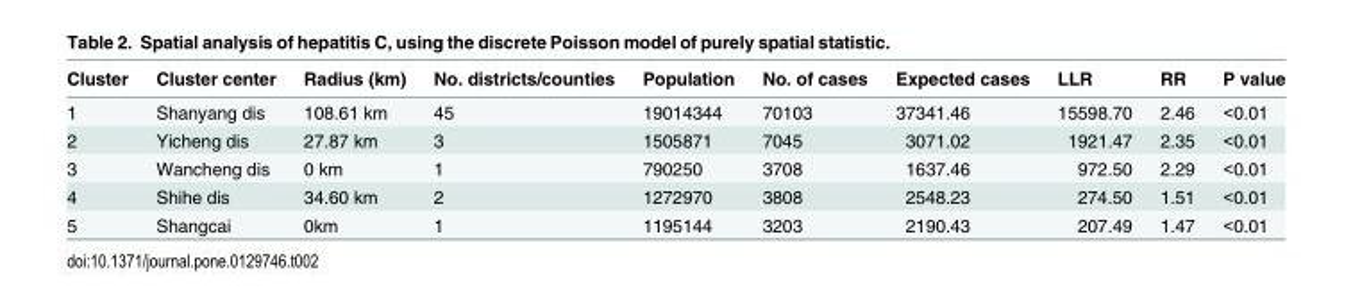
<table><thead><tr><td>Cluster</td><td>Cluster center</td><td>Radius (km)</td><td>No. districts/counties</td><td>Population</td><td>No. of cases</td><td>Expected cases</td><td>LLR</td><td>RR</td><td>P value</td></tr></thead><tbody><tr><td>1</td><td>Shanyang dis</td><td>108.61 km</td><td>45</td><td>19014344</td><td>70103</td><td>37341.46</td><td>15598.70</td><td>2.46</td><td>&lt;0.01</td></tr><tr><td>2</td><td>Yicheng dis</td><td>27.87 km</td><td>3</td><td>1505871</td><td>7045</td><td>3071.02</td><td>1921.47</td><td>2.35</td><td>&lt;0.01</td></tr><tr><td>3</td><td>Wancheng dis</td><td>0 km</td><td>1</td><td>790250</td><td>3708</td><td>1637.46</td><td>972.50</td><td>2.29</td><td>&lt;0.01</td></tr><tr><td>4</td><td>Shihe dis</td><td>34.60 km</td><td>2</td><td>1272970</td><td>3808</td><td>2548.23</td><td>274.50</td><td>1.51</td><td>&lt;0.01</td></tr><tr><td>5</td><td>Shangcai</td><td>0km</td><td>1</td><td>1195144</td><td>3203</td><td>2190.43</td><td>207.49</td><td>1.47</td><td>&lt;0.01</td></tr></tbody></table>